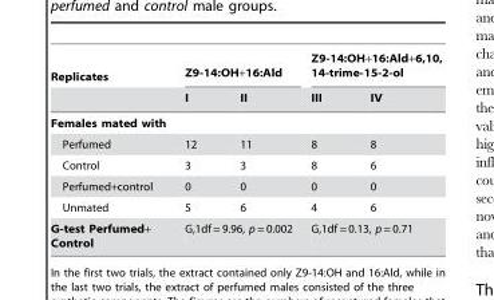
<table><thead><tr><td rowspan="2">Replicates</td><td colspan="2">Z9-14:OH+16:Ald</td><td colspan="2">Z9-14:OH+16:Ald+6,10, 14-trime-15-2-ol</td></tr><tr><td>I</td><td>II</td><td>III</td><td>IV</td></tr></thead><tbody><tr><td colspan="5">Females mated with</td></tr><tr><td>Perfumed</td><td>12</td><td>11</td><td>8</td><td>8</td></tr><tr><td>Control</td><td>3</td><td>3</td><td>8</td><td>6</td></tr><tr><td>Perfumed+control</td><td>0</td><td>0</td><td>0</td><td>0</td></tr><tr><td>Unmated</td><td>5</td><td>6</td><td>4</td><td>6</td></tr><tr><td>G-test Perfumed+ Control</td><td colspan="2">G,1df = 9.96, p = 0.002</td><td colspan="2">G,1df = 0.13, p = 0.71</td></tr></tbody></table>